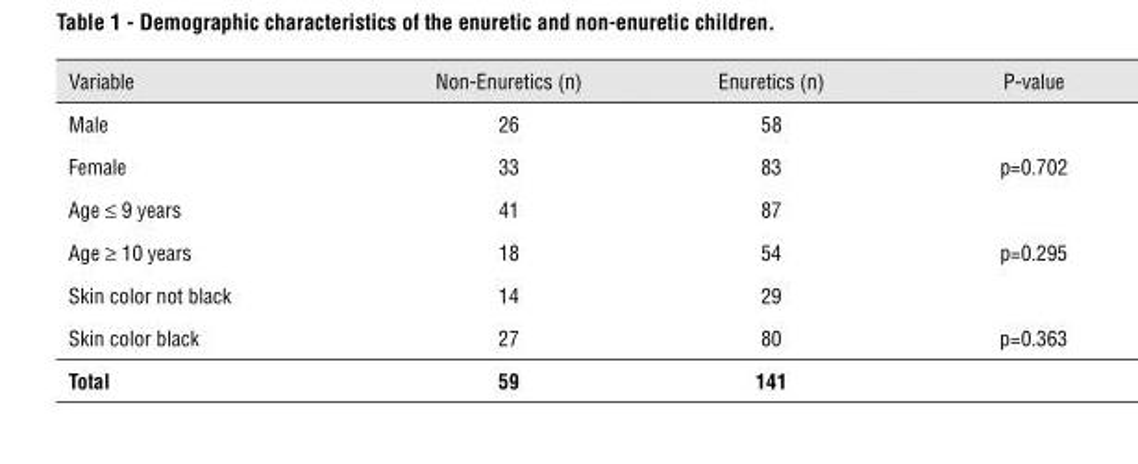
<table><thead><tr><td>Variable</td><td>Non-Enuretics (n)</td><td>Enuretics (n)</td><td>P-value</td></tr></thead><tbody><tr><td>Male</td><td>26</td><td>58</td><td></td></tr><tr><td>Female</td><td>33</td><td>83</td><td>p=0.702</td></tr><tr><td>Age ≤ 9 years</td><td>41</td><td>87</td><td></td></tr><tr><td>Age ≥ 10 years</td><td>18</td><td>54</td><td>p=0.295</td></tr><tr><td>Skin color not black</td><td>14</td><td>29</td><td></td></tr><tr><td>Skin color black</td><td>27</td><td>80</td><td>p=0.363</td></tr><tr><td>Total</td><td>59</td><td>141</td><td></td></tr></tbody></table>